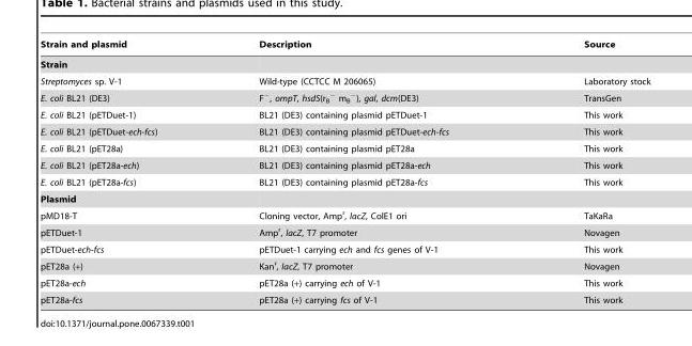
<table><thead><tr><td>Strain and plasmid</td><td>Description</td><td>Source</td></tr></thead><tbody><tr><td colspan="3">Strain</td></tr><tr><td>Streptomyces sp. V-1</td><td>Wild-type (CCTCC M 206065)</td><td>Laboratory stock</td></tr><tr><td>E. coli BL21 (DE3)</td><td>F<sup>−</sup>, ompT, hsdS(r<sub>B</sub> <sup>−</sup> m<sub>B</sub> <sup>−</sup>), gal, dcm(DE3)</td><td>TransGen</td></tr><tr><td>E. coli BL21 (pETDuet-1)</td><td>BL21 (DE3) containing plasmid pETDuet-1</td><td>This work</td></tr><tr><td>E. coli BL21 (pETDuet-ech-fcs)</td><td>BL21 (DE3) containing plasmid pETDuet-ech-fcs</td><td>This work</td></tr><tr><td>E. coli BL21 (pET28a)</td><td>BL21 (DE3) containing plasmid pET28a</td><td>This work</td></tr><tr><td>E. coli BL21 (pET28a-ech)</td><td>BL21 (DE3) containing plasmid pET28a-ech</td><td>This work</td></tr><tr><td>E. coli BL21 (pET28a-fcs)</td><td>BL21 (DE3) containing plasmid pET28a-fcs</td><td>This work</td></tr><tr><td colspan="3">Plasmid</td></tr><tr><td>pMD18-T</td><td>Cloning vector, Amp<sup>r</sup>, lacZ, ColE1 ori</td><td>TaKaRa</td></tr><tr><td>pETDuet-1</td><td>Amp<sup>r</sup>, lacZ, T7 promoter</td><td>Novagen</td></tr><tr><td>pETDuet-ech-fcs</td><td>pETDuet-1 carrying ech and fcs genes of V-1</td><td>This work</td></tr><tr><td>pET28a (+)</td><td>Kan<sup>r</sup>, lacZ, T7 promoter</td><td>Novagen</td></tr><tr><td>pET28a-ech</td><td>pET28a (+) carrying ech of V-1</td><td>This work</td></tr><tr><td>pET28a-fcs</td><td>pET28a (+) carrying fcs of V-1</td><td>This work</td></tr></tbody></table>